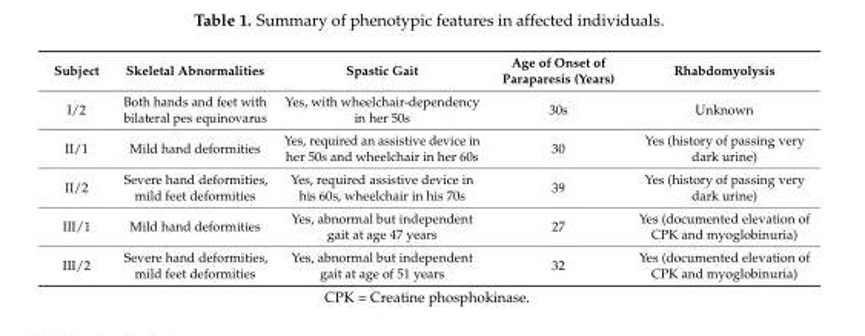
<table><thead><tr><td>Subject</td><td>Skeletal Abnormalities</td><td>Spastic Gait</td><td>Age of Onset of Paraparesis (Years)</td><td>Rhabdomyolysis</td></tr></thead><tbody><tr><td>I/2</td><td>Both hands and feet with bilateral pes equinovarus</td><td>Yes, with wheelchair-dependency in her 50s</td><td>30s</td><td>Unknown</td></tr><tr><td>II/1</td><td>Mild hand deformities</td><td>Yes, required an assistive device in her 50s and wheelchair in her 60s</td><td>30</td><td>Yes (history of passing very dark urine)</td></tr><tr><td>II/2</td><td>Severe hand deformities, mild feet deformities</td><td>Yes, required assistive device in his 60s, wheelchair in his 70s</td><td>39</td><td>Yes (history of passing very dark urine)</td></tr><tr><td>III/1</td><td>Mild hand deformities</td><td>Yes, abnormal but independent gait at age 47 years</td><td>27</td><td>Yes (documented elevation of CPK and myoglobinuria)</td></tr><tr><td>III/2</td><td>Severe hand deformities, mild feet deformities</td><td>Yes, abnormal but independent gait at age of 51 years</td><td>32</td><td>Yes (documented elevation of CPK and myoglobinuria)</td></tr></tbody></table>